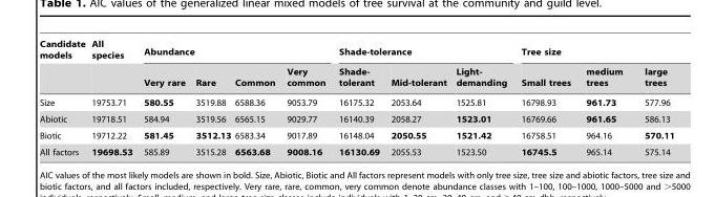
<table><thead><tr><td rowspan="2">Candidate models</td><td rowspan="2">All species</td><td colspan="4">Abundance</td><td colspan="3">Shade-tolerance</td><td colspan="3">Tree size</td></tr><tr><td>Very rare</td><td>Rare</td><td>Common</td><td>Very common</td><td>Shade- tolerant</td><td>Mid-tolerant</td><td>Light- demanding</td><td>Small trees</td><td>medium trees</td><td>large trees</td></tr></thead><tbody><tr><td>Size</td><td>19753.71</td><td>580.55</td><td>3519.88</td><td>6588.36</td><td>9053.79</td><td>16175.32</td><td>2053.64</td><td>1525.81</td><td>16798.93</td><td>961.73</td><td>577.96</td></tr><tr><td>Abiotic</td><td>19718.51</td><td>584.94</td><td>3519.56</td><td>6565.15</td><td>9029.77</td><td>16140.39</td><td>2058.27</td><td>1523.01</td><td>16769.66</td><td>961.65</td><td>586.13</td></tr><tr><td>Biotic</td><td>19712.22</td><td>581.45</td><td>3512.13</td><td>6583.34</td><td>9017.89</td><td>16148.04</td><td>2050.55</td><td>1521.42</td><td>16758.51</td><td>964.16</td><td>570.11</td></tr><tr><td>All factors</td><td>19698.53</td><td>585.89</td><td>3515.28</td><td>6563.68</td><td>9008.16</td><td>16130.69</td><td>2055.53</td><td>1523.50</td><td>16745.5</td><td>965.14</td><td>575.14</td></tr></tbody></table>